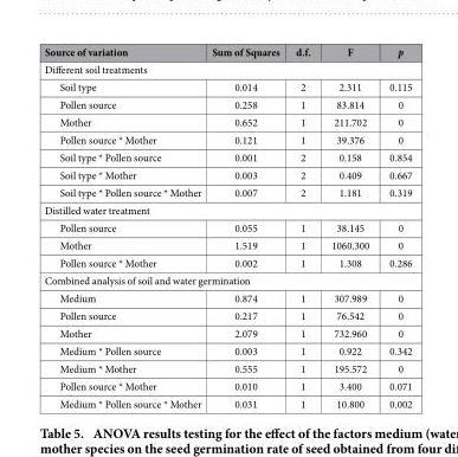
<table><thead><tr><td>Source of variation</td><td>Sum of Squares</td><td>d.f.</td><td>F</td><td>p</td></tr></thead><tbody><tr><td colspan="5">Different soil treatments</td></tr><tr><td>Soil type</td><td>0.014</td><td>2</td><td>2.311</td><td>0.115</td></tr><tr><td>Pollen source</td><td>0.258</td><td>1</td><td>83.814</td><td>0</td></tr><tr><td>Mother</td><td>0.652</td><td>1</td><td>211.702</td><td>0</td></tr><tr><td>Pollen source * Mother</td><td>0.121</td><td>1</td><td>39.376</td><td>0</td></tr><tr><td>Soil type * Pollen source</td><td>0.001</td><td>2</td><td>0.158</td><td>0.854</td></tr><tr><td>Soil type * Mother</td><td>0.003</td><td>2</td><td>0.409</td><td>0.667</td></tr><tr><td>Soil type * Pollen source * Mother</td><td>0.007</td><td>2</td><td>1.181</td><td>0.319</td></tr><tr><td colspan="5">Distilled water treatment</td></tr><tr><td>Pollen source</td><td>0.055</td><td>1</td><td>38.145</td><td>0</td></tr><tr><td>Mother</td><td>1.519</td><td>1</td><td>1060.300</td><td>0</td></tr><tr><td>Pollen source * Mother</td><td>0.002</td><td>1</td><td>1.308</td><td>0.286</td></tr><tr><td colspan="5">Combined analysis of soil and water germination</td></tr><tr><td>Medium</td><td>0.874</td><td>1</td><td>307.989</td><td>0</td></tr><tr><td>Pollen source</td><td>0.217</td><td>1</td><td>76.542</td><td>0</td></tr><tr><td>Mother</td><td>2.079</td><td>1</td><td>732.960</td><td>0</td></tr><tr><td>Medium * Pollen source</td><td>0.003</td><td>1</td><td>0.922</td><td>0.342</td></tr><tr><td>Medium * Mother</td><td>0.555</td><td>1</td><td>195.572</td><td>0</td></tr><tr><td>Pollen source * Mother</td><td>0.010</td><td>1</td><td>3.400</td><td>0.071</td></tr><tr><td>Medium * Pollen source * Mother</td><td>0.031</td><td>1</td><td>10.800</td><td>0.002</td></tr></tbody></table>